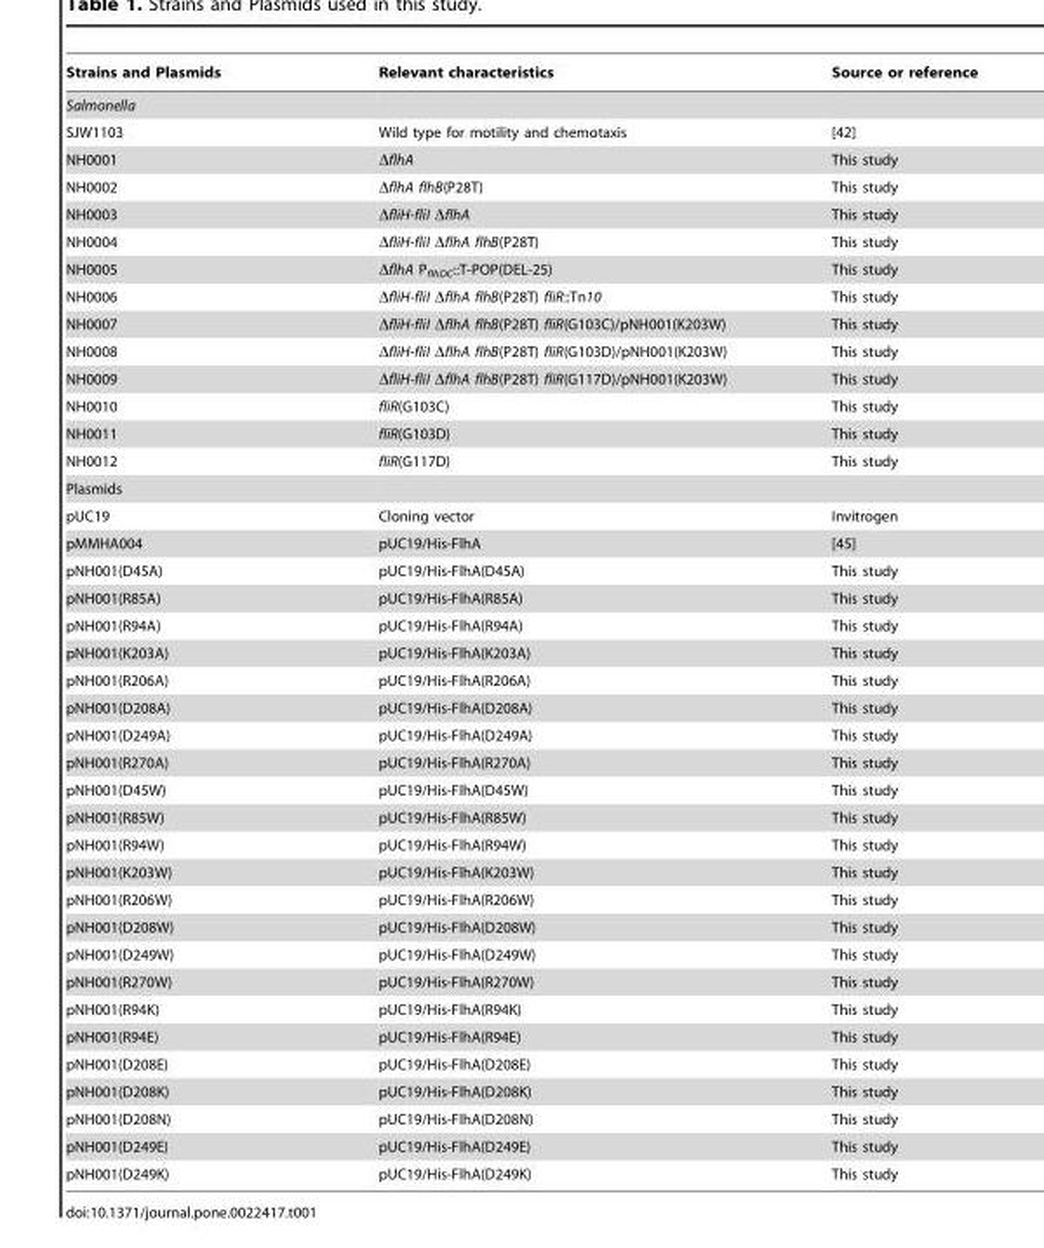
<table><thead><tr><td>Strains and Plasmids</td><td>Relevant characteristics</td><td>Source or reference</td></tr></thead><tbody><tr><td colspan="3">Salmonella</td></tr><tr><td>SJW1103</td><td>Wild type for motility and chemotaxis</td><td>[42]</td></tr><tr><td>NH0001</td><td>ΔflhA</td><td>This study</td></tr><tr><td>NH0002</td><td>ΔflhA flhB(P28T)</td><td>This study</td></tr><tr><td>NH0003</td><td>ΔfliH-fliI ΔflhA</td><td>This study</td></tr><tr><td>NH0004</td><td>ΔfliH-fliI ΔflhA flhB(P28T)</td><td>This study</td></tr><tr><td>NH0005</td><td>ΔflhA P<sub>flhDC</sub>::T-POP(DEL-25)</td><td>This study</td></tr><tr><td>NH0006</td><td>ΔfliH-fliI ΔflhA flhB(P28T) fliR::Tn10</td><td>This study</td></tr><tr><td>NH0007</td><td>ΔfliH-fliI ΔflhA flhB(P28T) fliR(G103C)/pNH001(K203W)</td><td>This study</td></tr><tr><td>NH0008</td><td>ΔfliH-fliI ΔflhA flhB(P28T) fliR(G103D)/pNH001(K203W)</td><td>This study</td></tr><tr><td>NH0009</td><td>ΔfliH-fliI ΔflhA flhB(P28T) fliR(G117D)/pNH001(K203W)</td><td>This study</td></tr><tr><td>NH0010</td><td>fliR(G103C)</td><td>This study</td></tr><tr><td>NH0011</td><td>fliR(G103D)</td><td>This study</td></tr><tr><td>NH0012</td><td>fliR(G117D)</td><td>This study</td></tr><tr><td colspan="3">Plasmids</td></tr><tr><td>pUC19</td><td>Cloning vector</td><td>Invitrogen</td></tr><tr><td>pMMHA004</td><td>pUC19/His-FlhA</td><td>[45]</td></tr><tr><td>pNH001(D45A)</td><td>pUC19/His-FlhA(D45A)</td><td>This study</td></tr><tr><td>pNH001(R85A)</td><td>pUC19/His-FlhA(R85A)</td><td>This study</td></tr><tr><td>pNH001(R94A)</td><td>pUC19/His-FlhA(R94A)</td><td>This study</td></tr><tr><td>pNH001(K203A)</td><td>pUC19/His-FlhA(K203A)</td><td>This study</td></tr><tr><td>pNH001(R206A)</td><td>pUC19/His-FlhA(R206A)</td><td>This study</td></tr><tr><td>pNH001(D208A)</td><td>pUC19/His-FlhA(D208A)</td><td>This study</td></tr><tr><td>pNH001(D249A)</td><td>pUC19/His-FlhA(D249A)</td><td>This study</td></tr><tr><td>pNH001(R270A)</td><td>pUC19/His-FlhA(R270A)</td><td>This study</td></tr><tr><td>pNH001(D45W)</td><td>pUC19/His-FlhA(D45W)</td><td>This study</td></tr><tr><td>pNH001(R85W)</td><td>pUC19/His-FlhA(R85W)</td><td>This study</td></tr><tr><td>pNH001(R94W)</td><td>pUC19/His-FlhA(R94W)</td><td>This study</td></tr><tr><td>pNH001(K203W)</td><td>pUC19/His-FlhA(K203W)</td><td>This study</td></tr><tr><td>pNH001(R206W)</td><td>pUC19/His-FlhA(R206W)</td><td>This study</td></tr><tr><td>pNH001(D208W)</td><td>pUC19/His-FlhA(D208W)</td><td>This study</td></tr><tr><td>pNH001(D249W)</td><td>pUC19/His-FlhA(D249W)</td><td>This study</td></tr><tr><td>pNH001(R270W)</td><td>pUC19/His-FlhA(R270W)</td><td>This study</td></tr><tr><td>pNH001(R94K)</td><td>pUC19/His-FlhA(R94K)</td><td>This study</td></tr><tr><td>pNH001(R94E)</td><td>pUC19/His-FlhA(R94E)</td><td>This study</td></tr><tr><td>pNH001(D208E)</td><td>pUC19/His-FlhA(D208E)</td><td>This study</td></tr><tr><td>pNH001(D208K)</td><td>pUC19/His-FlhA(D208K)</td><td>This study</td></tr><tr><td>pNH001(D208N)</td><td>pUC19/His-FlhA(D208N)</td><td>This study</td></tr><tr><td>pNH001(D249E)</td><td>pUC19/His-FlhA(D249E)</td><td>This study</td></tr><tr><td>pNH001(D249K)</td><td>pUC19/His-FlhA(D249K)</td><td>This study</td></tr></tbody></table>